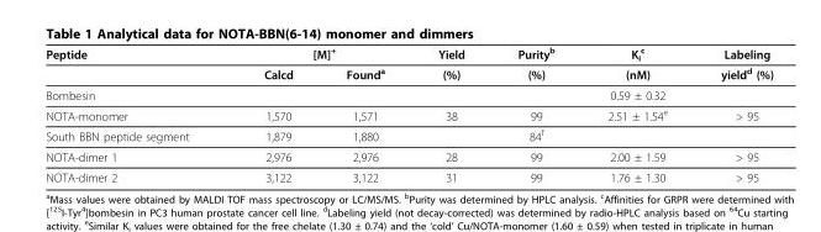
<table><thead><tr><td rowspan="2">Peptide</td><td colspan="2">[M]+</td><td rowspan="2">Yield (%)</td><td rowspan="2">Purityb (%)</td><td rowspan="2">Ki c (nM)</td><td rowspan="2">Labeling yieldd (%)</td></tr><tr><td>Calcd</td><td>Founda</td></tr></thead><tbody><tr><td>Bombesin</td><td></td><td></td><td></td><td></td><td>0.59 ± 0.32</td><td></td></tr><tr><td>NOTA-monomer</td><td>1,570</td><td>1,571</td><td>38</td><td>99</td><td>2.51 ± 1.54<sup>e</sup></td><td>&gt; 95</td></tr><tr><td>South BBN peptide segment</td><td>1,879</td><td>1,880</td><td></td><td>84<sup>f</sup></td><td></td><td></td></tr><tr><td>NOTA-dimer 1</td><td>2,976</td><td>2,976</td><td>28</td><td>99</td><td>2.00 ± 1.59</td><td>&gt; 95</td></tr><tr><td>NOTA-dimer 2</td><td>3,122</td><td>3,122</td><td>31</td><td>99</td><td>1.76 ± 1.30</td><td>&gt; 95</td></tr></tbody></table>